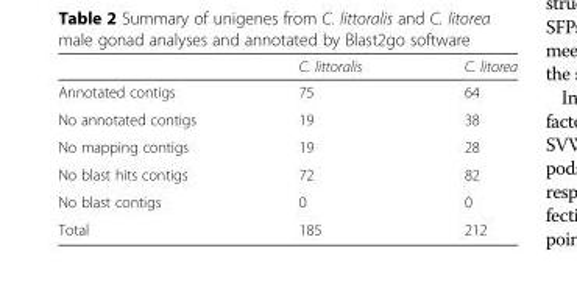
<table><thead><tr><td></td><td>C. littoralis</td><td>C. litorea</td></tr></thead><tbody><tr><td>Annotated contigs</td><td>75</td><td>64</td></tr><tr><td>No annotated contigs</td><td>19</td><td>38</td></tr><tr><td>No mapping contigs</td><td>19</td><td>28</td></tr><tr><td>No blast hits contigs</td><td>72</td><td>82</td></tr><tr><td>No blast contigs</td><td>0</td><td>0</td></tr><tr><td>Total</td><td>185</td><td>212</td></tr></tbody></table>